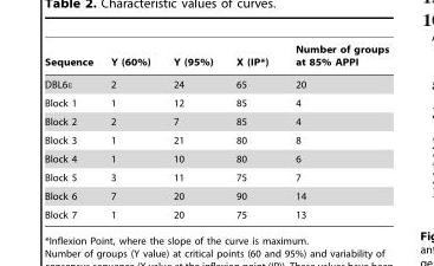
<table><thead><tr><td>Sequence</td><td>Y (60%)</td><td>Y (95%)</td><td>X (IP*)</td><td>Number of groups at 85% APPI</td></tr></thead><tbody><tr><td>DBL6ε</td><td>2</td><td>24</td><td>65</td><td>20</td></tr><tr><td>Block 1</td><td>1</td><td>12</td><td>85</td><td>4</td></tr><tr><td>Block 2</td><td>2</td><td>7</td><td>85</td><td>4</td></tr><tr><td>Block 3</td><td>1</td><td>21</td><td>80</td><td>8</td></tr><tr><td>Block 4</td><td>1</td><td>10</td><td>80</td><td>6</td></tr><tr><td>Block 5</td><td>3</td><td>11</td><td>75</td><td>7</td></tr><tr><td>Block 6</td><td>7</td><td>20</td><td>90</td><td>14</td></tr><tr><td>Block 7</td><td>1</td><td>20</td><td>75</td><td>13</td></tr></tbody></table>